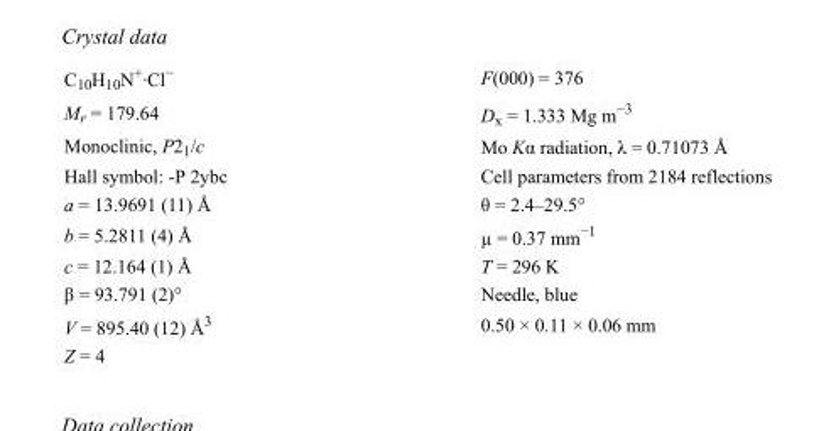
<table><tbody><tr><td>C<sub>10</sub>H<sub>10</sub>N<sup>+</sup>·Cl<sup>−</sup></td><td>F(000) = 376</td></tr><tr><td>M<sub>r</sub> = 179.64</td><td>D<sub>x</sub> = 1.333 Mg m<sup>−3</sup></td></tr><tr><td>Monoclinic, P2<sub>1</sub>/c</td><td>Mo Kα radiation, λ = 0.71073 Å</td></tr><tr><td>Hall symbol: -P 2ybc</td><td>Cell parameters from 2184 reflections</td></tr><tr><td>a = 13.9691 (11) Å</td><td>θ = 2.4–29.5°</td></tr><tr><td>b = 5.2811 (4) Å</td><td>µ = 0.37 mm<sup>−1</sup></td></tr><tr><td>c = 12.164 (1) Å</td><td>T = 296 K</td></tr><tr><td>β = 93.791 (2)°</td><td>Needle, blue</td></tr><tr><td>V = 895.40 (12) Å<sup>3</sup></td><td>0.50 × 0.11 × 0.06 mm</td></tr><tr><td>Z = 4</td><td></td></tr></tbody></table>